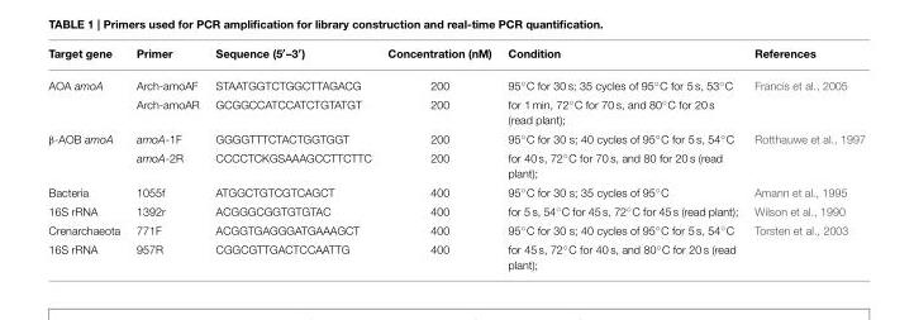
<table><thead><tr><td>Target gene</td><td>Primer</td><td>Sequence (5′–3′)</td><td>Concentration (nM)</td><td>Condition</td><td>References</td></tr></thead><tbody><tr><td rowspan="2">AOA amoA</td><td>Arch-amoAF</td><td>STAATGGTCTGGCTTAGACG</td><td>200</td><td>95◦C for 30 s; 35 cycles of 95◦C for 5 s, 53◦C</td><td>Francis et al., 2005</td></tr><tr><td>Arch-amoAR</td><td>GCGGCCATCCATCTGTATGT</td><td>200</td><td>for 1 min, 72◦C for 70 s, and 80◦C for 20 s (read plant);</td><td></td></tr><tr><td rowspan="2">β-AOB amoA</td><td>amoA-1F</td><td>GGGGTTTCTACTGGTGGT</td><td>200</td><td>95◦C for 30 s; 40 cycles of 95◦C for 5 s, 54◦C</td><td>Rotthauwe et al., 1997</td></tr><tr><td>amoA-2R</td><td>CCCCTCKGSAAAGCCTTCTTC</td><td>200</td><td>for 40 s, 72◦C for 70 s, and 80 for 20 s (read plant);</td><td></td></tr><tr><td>Bacteria</td><td>1055f</td><td>ATGGCTGTCGTCAGCT</td><td>400</td><td>95◦C for 30 s; 35 cycles of 95◦C</td><td>Amann et al., 1995</td></tr><tr><td>16S rRNA</td><td>1392r</td><td>ACGGGCGGTGTGTAC</td><td>400</td><td>for 5 s, 54◦C for 45 s, 72◦C for 45 s (read plant);</td><td>Wilson et al., 1990</td></tr><tr><td>Crenarchaeota</td><td>771F</td><td>ACGGTGAGGGATGAAAGCT</td><td>400</td><td>95◦C for 30 s; 40 cycles of 95◦C for 5 s, 54◦C</td><td>Torsten et al., 2003</td></tr><tr><td>16S rRNA</td><td>957R</td><td>CGGCGTTGACTCCAATTG</td><td>400</td><td>for 45 s, 72◦C for 40 s, and 80◦C for 20 s (read plant);</td><td></td></tr></tbody></table>